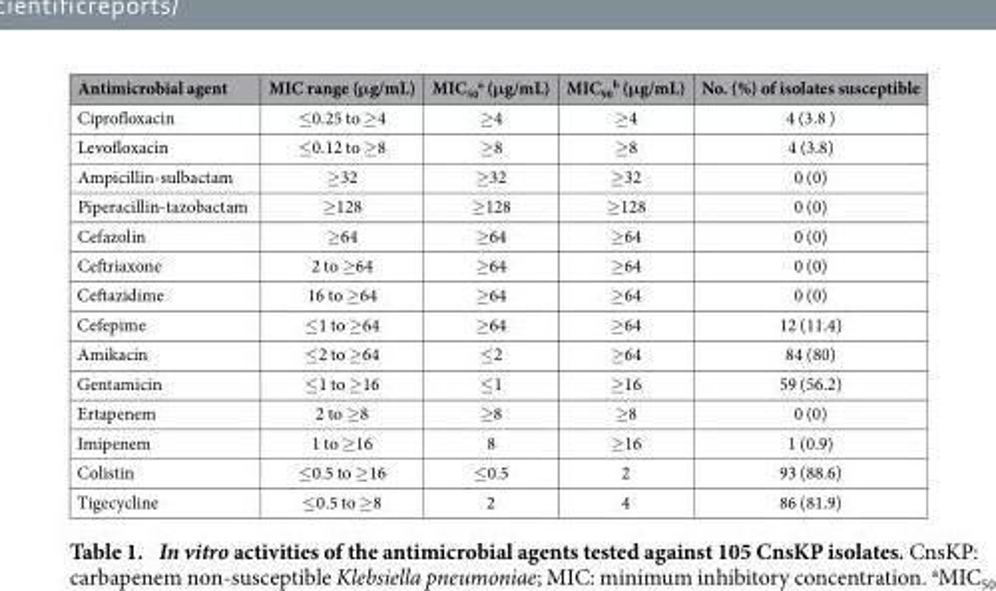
<table><thead><tr><td>Antimicrobial agent</td><td>MIC range (μg/mL)</td><td>MIC<sub>50</sub> <sup>a</sup> (μg/mL)</td><td>MIC<sub>90</sub> <sup>b</sup> (μg/mL)</td><td>No. (%) of isolates susceptible</td></tr></thead><tbody><tr><td>Ciprofloxacin</td><td>≤ 0.25 to ≥ 4</td><td>≥ 4</td><td>≥ 4</td><td>4 (3.8 )</td></tr><tr><td>Levofloxacin</td><td>≤ 0.12 to ≥ 8</td><td>≥ 8</td><td>≥ 8</td><td>4 (3.8)</td></tr><tr><td>Ampicillin-sulbactam</td><td>≥ 32</td><td>≥ 32</td><td>≥ 32</td><td>0 (0)</td></tr><tr><td>Piperacillin-tazobactam</td><td>≥ 128</td><td>≥ 128</td><td>≥ 128</td><td>0 (0)</td></tr><tr><td>Cefazolin</td><td>≥ 64</td><td>≥ 64</td><td>≥ 64</td><td>0 (0)</td></tr><tr><td>Ceftriaxone</td><td>2 to ≥ 64</td><td>≥ 64</td><td>≥ 64</td><td>0 (0)</td></tr><tr><td>Ceftazidime</td><td>16 to ≥ 64</td><td>≥ 64</td><td>≥ 64</td><td>0 (0)</td></tr><tr><td>Cefepime</td><td>≤ 1 to ≥ 64</td><td>≥ 64</td><td>≥ 64</td><td>12 (11.4)</td></tr><tr><td>Amikacin</td><td>≤ 2 to ≥ 64</td><td>≤ 2</td><td>≥ 64</td><td>84 (80)</td></tr><tr><td>Gentamicin</td><td>≤ 1 to ≥ 16</td><td>≤ 1</td><td>≥ 16</td><td>59 (56.2)</td></tr><tr><td>Ertapenem</td><td>2 to ≥ 8</td><td>≥ 8</td><td>≥ 8</td><td>0 (0)</td></tr><tr><td>Imipenem</td><td>1 to ≥ 16</td><td>8</td><td>≥ 16</td><td>1 (0.9)</td></tr><tr><td>Colistin</td><td>≤ 0.5 to ≥ 16</td><td>≤ 0.5</td><td>2</td><td>93 (88.6)</td></tr><tr><td>Tigecycline</td><td>≤ 0.5 to ≥ 8</td><td>2</td><td>4</td><td>86 (81.9)</td></tr></tbody></table>